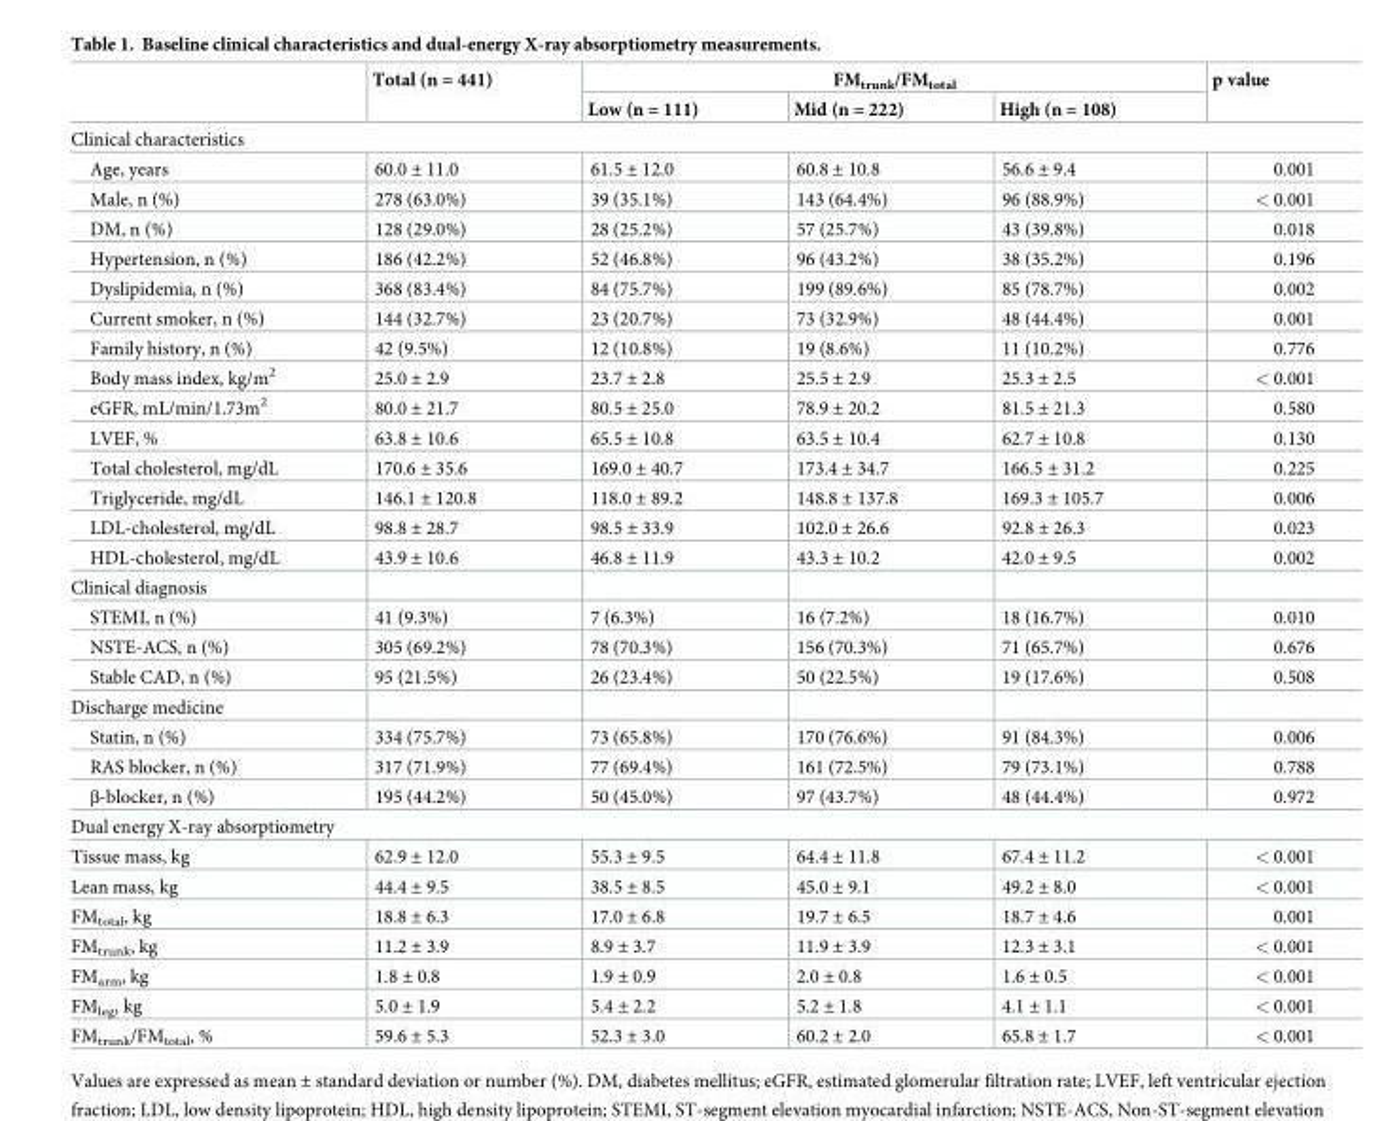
<table><thead><tr><td rowspan="2"></td><td rowspan="2">Total (n = 441)</td><td colspan="3">FM<sub>trunk</sub>/FM<sub>total</sub></td><td rowspan="2">p value</td></tr><tr><td>Low (n = 111)</td><td>Mid (n = 222)</td><td>High (n = 108)</td></tr></thead><tbody><tr><td colspan="6">Clinical characteristics</td></tr><tr><td>Age, years</td><td>60.0 ± 11.0</td><td>61.5 ± 12.0</td><td>60.8 ± 10.8</td><td>56.6 ± 9.4</td><td>0.001</td></tr><tr><td>Male, n (%)</td><td>278 (63.0%)</td><td>39 (35.1%)</td><td>143 (64.4%)</td><td>96 (88.9%)</td><td>&lt; 0.001</td></tr><tr><td>DM, n (%)</td><td>128 (29.0%)</td><td>28 (25.2%)</td><td>57 (25.7%)</td><td>43 (39.8%)</td><td>0.018</td></tr><tr><td>Hypertension, n (%)</td><td>186 (42.2%)</td><td>52 (46.8%)</td><td>96 (43.2%)</td><td>38 (35.2%)</td><td>0.196</td></tr><tr><td>Dyslipidemia, n (%)</td><td>368 (83.4%)</td><td>84 (75.7%)</td><td>199 (89.6%)</td><td>85 (78.7%)</td><td>0.002</td></tr><tr><td>Current smoker, n (%)</td><td>144 (32.7%)</td><td>23 (20.7%)</td><td>73 (32.9%)</td><td>48 (44.4%)</td><td>0.001</td></tr><tr><td>Family history, n (%)</td><td>42 (9.5%)</td><td>12 (10.8%)</td><td>19 (8.6%)</td><td>11 (10.2%)</td><td>0.776</td></tr><tr><td>Body mass index, kg/m<sup>2</sup></td><td>25.0 ± 2.9</td><td>23.7 ± 2.8</td><td>25.5 ± 2.9</td><td>25.3 ± 2.5</td><td>&lt; 0.001</td></tr><tr><td>eGFR, mL/min/1.73m<sup>2</sup></td><td>80.0 ± 21.7</td><td>80.5 ± 25.0</td><td>78.9 ± 20.2</td><td>81.5 ± 21.3</td><td>0.580</td></tr><tr><td>LVEF, %</td><td>63.8 ± 10.6</td><td>65.5 ± 10.8</td><td>63.5 ± 10.4</td><td>62.7 ± 10.8</td><td>0.130</td></tr><tr><td>Total cholesterol, mg/dL</td><td>170.6 ± 35.6</td><td>169.0 ± 40.7</td><td>173.4 ± 34.7</td><td>166.5 ± 31.2</td><td>0.225</td></tr><tr><td>Triglyceride, mg/dL</td><td>146.1 ± 120.8</td><td>118.0 ± 89.2</td><td>148.8 ± 137.8</td><td>169.3 ± 105.7</td><td>0.006</td></tr><tr><td>LDL-cholesterol, mg/dL</td><td>98.8 ± 28.7</td><td>98.5 ± 33.9</td><td>102.0 ± 26.6</td><td>92.8 ± 26.3</td><td>0.023</td></tr><tr><td>HDL-cholesterol, mg/dL</td><td>43.9 ± 10.6</td><td>46.8 ± 11.9</td><td>43.3 ± 10.2</td><td>42.0 ± 9.5</td><td>0.002</td></tr><tr><td colspan="6">Clinical diagnosis</td></tr><tr><td>STEMI, n (%)</td><td>41 (9.3%)</td><td>7 (6.3%)</td><td>16 (7.2%)</td><td>18 (16.7%)</td><td>0.010</td></tr><tr><td>NSTE-ACS, n (%)</td><td>305 (69.2%)</td><td>78 (70.3%)</td><td>156 (70.3%)</td><td>71 (65.7%)</td><td>0.676</td></tr><tr><td>Stable CAD, n (%)</td><td>95 (21.5%)</td><td>26 (23.4%)</td><td>50 (22.5%)</td><td>19 (17.6%)</td><td>0.508</td></tr><tr><td colspan="6">Discharge medicine</td></tr><tr><td>Statin, n (%)</td><td>334 (75.7%)</td><td>73 (65.8%)</td><td>170 (76.6%)</td><td>91 (84.3%)</td><td>0.006</td></tr><tr><td>RAS blocker, n (%)</td><td>317 (71.9%)</td><td>77 (69.4%)</td><td>161 (72.5%)</td><td>79 (73.1%)</td><td>0.788</td></tr><tr><td>β-blocker, n (%)</td><td>195 (44.2%)</td><td>50 (45.0%)</td><td>97 (43.7%)</td><td>48 (44.4%)</td><td>0.972</td></tr><tr><td colspan="6">Dual energy X-ray absorptiometry</td></tr><tr><td>Tissue mass, kg</td><td>62.9 ± 12.0</td><td>55.3 ± 9.5</td><td>64.4 ± 11.8</td><td>67.4 ± 11.2</td><td>&lt; 0.001</td></tr><tr><td>Lean mass, kg</td><td>44.4 ± 9.5</td><td>38.5 ± 8.5</td><td>45.0 ± 9.1</td><td>49.2 ± 8.0</td><td>&lt; 0.001</td></tr><tr><td>FM<sub>total</sub>, kg</td><td>18.8 ± 6.3</td><td>17.0 ± 6.8</td><td>19.7 ± 6.5</td><td>18.7 ± 4.6</td><td>0.001</td></tr><tr><td>FM<sub>trunk</sub>, kg</td><td>11.2 ± 3.9</td><td>8.9 ± 3.7</td><td>11.9 ± 3.9</td><td>12.3 ± 3.1</td><td>&lt; 0.001</td></tr><tr><td>FM<sub>arm</sub>, kg</td><td>1.8 ± 0.8</td><td>1.9 ± 0.9</td><td>2.0 ± 0.8</td><td>1.6 ± 0.5</td><td>&lt; 0.001</td></tr><tr><td>FM<sub>leg</sub>, kg</td><td>5.0 ± 1.9</td><td>5.4 ± 2.2</td><td>5.2 ± 1.8</td><td>4.1 ± 1.1</td><td>&lt; 0.001</td></tr><tr><td>FM<sub>trunk</sub>/FM<sub>total</sub>, %</td><td>59.6 ± 5.3</td><td>52.3 ± 3.0</td><td>60.2 ± 2.0</td><td>65.8 ± 1.7</td><td>&lt; 0.001</td></tr></tbody></table>